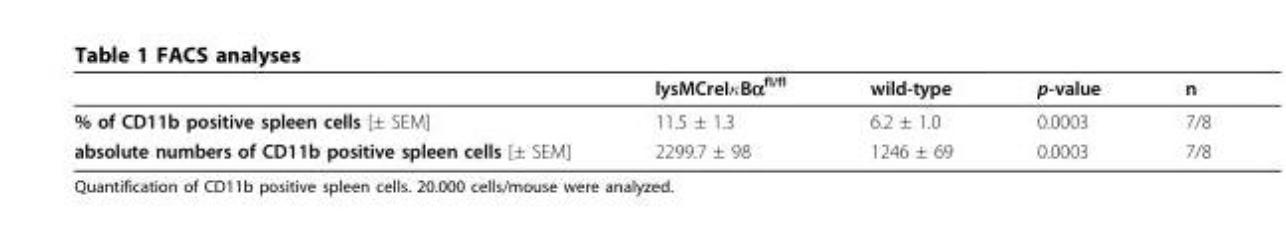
<table><thead><tr><td></td><td>lysMCreIκBα<sup>fl/fl</sup></td><td>wild-type</td><td>p-value</td><td>n</td></tr></thead><tbody><tr><td>% of CD11b positive spleen cells [± SEM]</td><td>11.5 ± 1.3</td><td>6.2 ± 1.0</td><td>0.0003</td><td>7/8</td></tr><tr><td>absolute numbers of CD11b positive spleen cells [± SEM]</td><td>2299.7 ± 98</td><td>1246 ± 69</td><td>0.0003</td><td>7/8</td></tr></tbody></table>